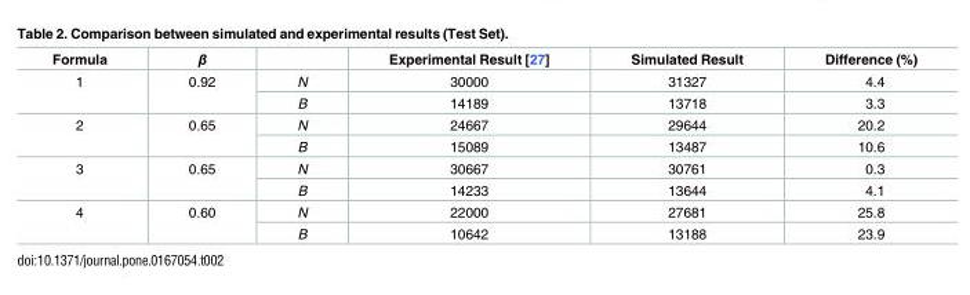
<table><thead><tr><td>Formula</td><td>β</td><td></td><td>Experimental Result [27]</td><td>Simulated Result</td><td>Difference (%)</td></tr></thead><tbody><tr><td rowspan="2">1</td><td rowspan="2">0.92</td><td>N</td><td>30000</td><td>31327</td><td>4.4</td></tr><tr><td>B</td><td>14189</td><td>13718</td><td>3.3</td></tr><tr><td rowspan="2">2</td><td rowspan="2">0.65</td><td>N</td><td>24667</td><td>29644</td><td>20.2</td></tr><tr><td>B</td><td>15089</td><td>13487</td><td>10.6</td></tr><tr><td rowspan="2">3</td><td rowspan="2">0.65</td><td>N</td><td>30667</td><td>30761</td><td>0.3</td></tr><tr><td>B</td><td>14233</td><td>13644</td><td>4.1</td></tr><tr><td rowspan="2">4</td><td rowspan="2">0.60</td><td>N</td><td>22000</td><td>27681</td><td>25.8</td></tr><tr><td>B</td><td>10642</td><td>13188</td><td>23.9</td></tr></tbody></table>